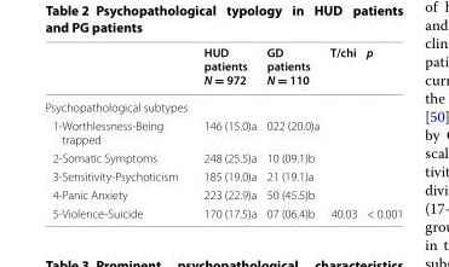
<table><thead><tr><td></td><td>HUD patients N = 972</td><td>GD patients N = 110</td><td>T/chi</td><td>p</td></tr></thead><tbody><tr><td colspan="5">Psychopathological subtypes</td></tr><tr><td>1-Worthlessness-Being trapped</td><td>146 (15.0)a</td><td>022 (20.0)a</td><td></td><td></td></tr><tr><td>2-Somatic Symptoms</td><td>248 (25.5)a</td><td>10 (09.1)b</td><td></td><td></td></tr><tr><td>3-Sensitivity-Psychoticism</td><td>185 (19.0)a</td><td>21 (19.1)a</td><td></td><td></td></tr><tr><td>4-Panic Anxiety</td><td>223 (22.9)a</td><td>50 (45.5)b</td><td></td><td></td></tr><tr><td>5-Violence-Suicide</td><td>170 (17.5)a</td><td>07 (06.4)b</td><td>40.03</td><td>&lt; 0.001</td></tr></tbody></table>